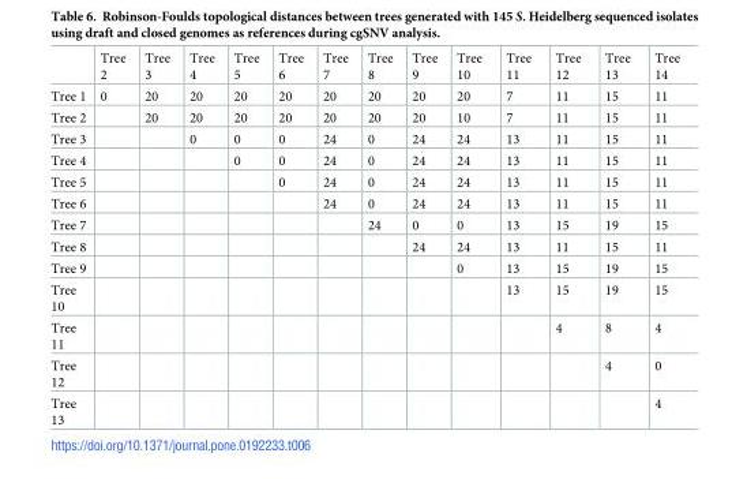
<table><thead><tr><td></td><td>Tree 2</td><td>Tree 3</td><td>Tree 4</td><td>Tree 5</td><td>Tree 6</td><td>Tree 7</td><td>Tree 8</td><td>Tree 9</td><td>Tree 10</td><td>Tree 11</td><td>Tree 12</td><td>Tree 13</td><td>Tree 14</td></tr></thead><tbody><tr><td>Tree 1</td><td>0</td><td>20</td><td>20</td><td>20</td><td>20</td><td>20</td><td>20</td><td>20</td><td>20</td><td>7</td><td>11</td><td>15</td><td>11</td></tr><tr><td>Tree 2</td><td></td><td>20</td><td>20</td><td>20</td><td>20</td><td>20</td><td>20</td><td>20</td><td>10</td><td>7</td><td>11</td><td>15</td><td>11</td></tr><tr><td>Tree 3</td><td></td><td></td><td>0</td><td>0</td><td>0</td><td>24</td><td>0</td><td>24</td><td>24</td><td>13</td><td>11</td><td>15</td><td>11</td></tr><tr><td>Tree 4</td><td></td><td></td><td></td><td>0</td><td>0</td><td>24</td><td>0</td><td>24</td><td>24</td><td>13</td><td>11</td><td>15</td><td>11</td></tr><tr><td>Tree 5</td><td></td><td></td><td></td><td></td><td>0</td><td>24</td><td>0</td><td>24</td><td>24</td><td>13</td><td>11</td><td>15</td><td>11</td></tr><tr><td>Tree 6</td><td></td><td></td><td></td><td></td><td></td><td>24</td><td>0</td><td>24</td><td>24</td><td>13</td><td>11</td><td>15</td><td>11</td></tr><tr><td>Tree 7</td><td></td><td></td><td></td><td></td><td></td><td></td><td>24</td><td>0</td><td>0</td><td>13</td><td>15</td><td>19</td><td>15</td></tr><tr><td>Tree 8</td><td></td><td></td><td></td><td></td><td></td><td></td><td></td><td>24</td><td>24</td><td>13</td><td>11</td><td>15</td><td>11</td></tr><tr><td>Tree 9</td><td></td><td></td><td></td><td></td><td></td><td></td><td></td><td></td><td>0</td><td>13</td><td>15</td><td>19</td><td>15</td></tr><tr><td>Tree 10</td><td></td><td></td><td></td><td></td><td></td><td></td><td></td><td></td><td></td><td>13</td><td>15</td><td>19</td><td>15</td></tr><tr><td>Tree 11</td><td></td><td></td><td></td><td></td><td></td><td></td><td></td><td></td><td></td><td></td><td>4</td><td>8</td><td>4</td></tr><tr><td>Tree 12</td><td></td><td></td><td></td><td></td><td></td><td></td><td></td><td></td><td></td><td></td><td></td><td>4</td><td>0</td></tr><tr><td>Tree 13</td><td></td><td></td><td></td><td></td><td></td><td></td><td></td><td></td><td></td><td></td><td></td><td></td><td>4</td></tr></tbody></table>